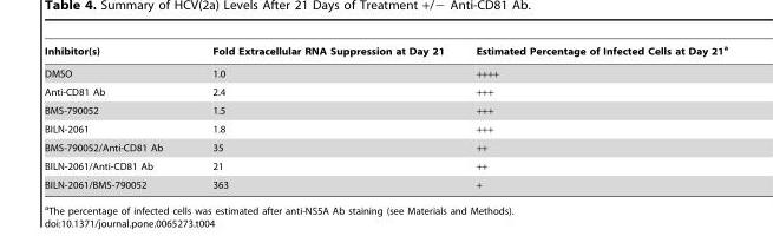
<table><thead><tr><td>Inhibitor(s)</td><td>Fold Extracellular RNA Suppression at Day 21</td><td>Estimated Percentage of Infected Cells at Day 21<sup>a</sup></td></tr></thead><tbody><tr><td>DMSO</td><td>1.0</td><td>++++</td></tr><tr><td>Anti-CD81 Ab</td><td>2.4</td><td>+++</td></tr><tr><td>BMS-790052</td><td>1.5</td><td>+++</td></tr><tr><td>BILN-2061</td><td>1.8</td><td>+++</td></tr><tr><td>BMS-790052/Anti-CD81 Ab</td><td>35</td><td>++</td></tr><tr><td>BILN-2061/Anti-CD81 Ab</td><td>21</td><td>++</td></tr><tr><td>BILN-2061/BMS-790052</td><td>363</td><td>+</td></tr></tbody></table>